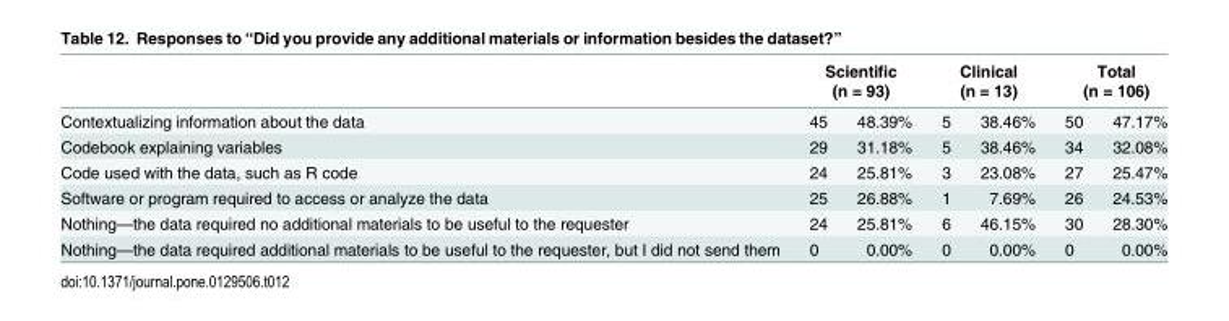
<table><thead><tr><td rowspan="2">Contextualizing information about the data</td><td colspan="2">Scientific (n = 93)</td><td colspan="2">Clinical (n = 13)</td><td colspan="2">Total (n = 106)</td></tr><tr><td>45</td><td>48.39%</td><td>5</td><td>38.46%</td><td>50</td><td>47.17%</td></tr></thead><tbody><tr><td>Codebook explaining variables</td><td>29</td><td>31.18%</td><td>5</td><td>38.46%</td><td>34</td><td>32.08%</td></tr><tr><td>Code used with the data, such as R code</td><td>24</td><td>25.81%</td><td>3</td><td>23.08%</td><td>27</td><td>25.47%</td></tr><tr><td>Software or program required to access or analyze the data</td><td>25</td><td>26.88%</td><td>1</td><td>7.69%</td><td>26</td><td>24.53%</td></tr><tr><td>Nothing—the data required no additional materials to be useful to the requester</td><td>24</td><td>25.81%</td><td>6</td><td>46.15%</td><td>30</td><td>28.30%</td></tr><tr><td>Nothing—the data required additional materials to be useful to the requester, but I did not send them</td><td>0</td><td>0.00%</td><td>0</td><td>0.00%</td><td>0</td><td>0.00%</td></tr></tbody></table>